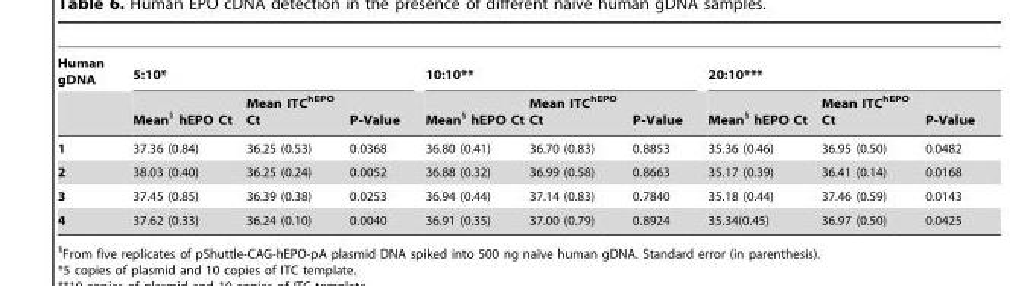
<table><thead><tr><td rowspan="2">Human gDNA</td><td colspan="3">5:10*</td><td colspan="3">10:10**</td><td colspan="3">20:10***</td></tr><tr><td>Mean§ hEPO Ct</td><td>Mean ITC<sup>hEPO</sup> Ct</td><td>P-Value</td><td>Mean§ hEPO Ct</td><td>Mean ITC<sup>hEPO</sup> Ct</td><td>P-Value</td><td>Mean§ hEPO Ct</td><td>Mean ITC<sup>hEPO</sup> Ct</td><td>P-Value</td></tr></thead><tbody><tr><td>1</td><td>37.36 (0.84)</td><td>36.25 (0.53)</td><td>0.0368</td><td>36.80 (0.41)</td><td>36.70 (0.83)</td><td>0.8853</td><td>35.36 (0.46)</td><td>36.95 (0.50)</td><td>0.0482</td></tr><tr><td>2</td><td>38.03 (0.40)</td><td>36.25 (0.24)</td><td>0.0052</td><td>36.88 (0.32)</td><td>36.99 (0.58)</td><td>0.8663</td><td>35.17 (0.39)</td><td>36.41 (0.14)</td><td>0.0168</td></tr><tr><td>3</td><td>37.45 (0.85)</td><td>36.39 (0.38)</td><td>0.0253</td><td>36.94 (0.44)</td><td>37.14 (0.83)</td><td>0.7840</td><td>35.18 (0.44)</td><td>37.46 (0.59)</td><td>0.0143</td></tr><tr><td>4</td><td>37.62 (0.33)</td><td>36.24 (0.10)</td><td>0.0040</td><td>36.91 (0.35)</td><td>37.00 (0.79)</td><td>0.8924</td><td>35.34(0.45)</td><td>36.97 (0.50)</td><td>0.0425</td></tr></tbody></table>